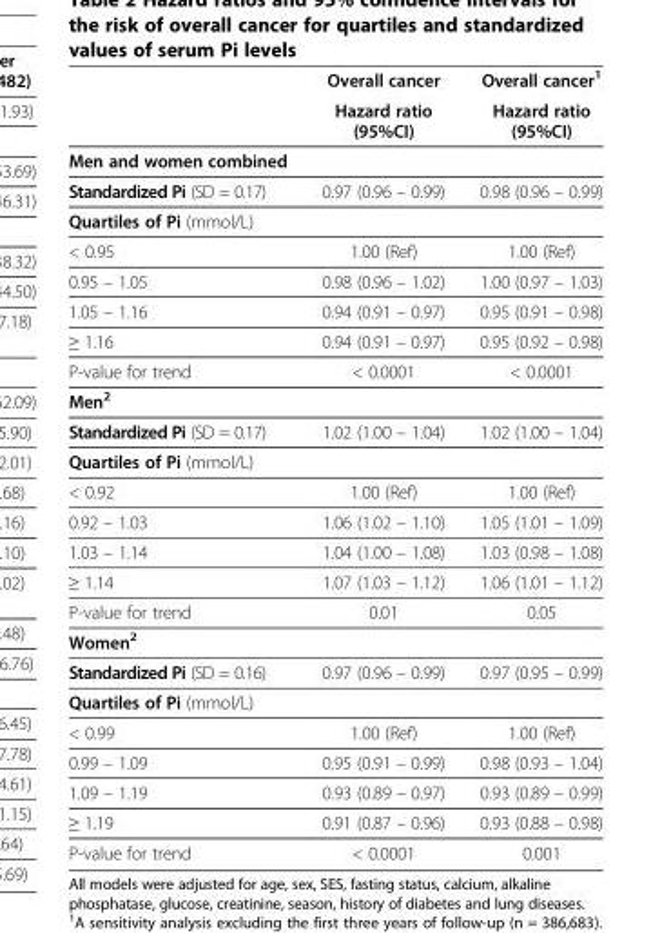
<table><thead><tr><td rowspan="2"></td><td rowspan="2">Overall cancer Hazard ratio (95%CI)</td><td rowspan="2">Overall cancer<sup>1</sup> Hazard ratio (95%CI)</td></tr><tr></tr></thead><tbody><tr><td colspan="3">Men and women combined</td></tr><tr><td>Standardized Pi (SD = 0.17)</td><td>0.97 (0.96 – 0.99)</td><td>0.98 (0.96 – 0.99)</td></tr><tr><td colspan="3">Quartiles of Pi (mmol/L)</td></tr><tr><td>&lt; 0.95</td><td>1.00 (Ref)</td><td>1.00 (Ref)</td></tr><tr><td>0.95 – 1.05</td><td>0.98 (0.96 – 1.02)</td><td>1.00 (0.97 – 1.03)</td></tr><tr><td>1.05 – 1.16</td><td>0.94 (0.91 – 0.97)</td><td>0.95 (0.91 – 0.98)</td></tr><tr><td>≥ 1.16</td><td>0.94 (0.91 – 0.97)</td><td>0.95 (0.92 – 0.98)</td></tr><tr><td>P-value for trend</td><td>&lt; 0.0001</td><td>&lt; 0.0001</td></tr><tr><td colspan="3">Men<sup>2</sup></td></tr><tr><td>Standardized Pi (SD = 0.17)</td><td>1.02 (1.00 – 1.04)</td><td>1.02 (1.00 – 1.04)</td></tr><tr><td colspan="3">Quartiles of Pi (mmol/L)</td></tr><tr><td>&lt; 0.92</td><td>1.00 (Ref)</td><td>1.00 (Ref)</td></tr><tr><td>0.92 – 1.03</td><td>1.06 (1.02 – 1.10)</td><td>1.05 (1.01 – 1.09)</td></tr><tr><td>1.03 – 1.14</td><td>1.04 (1.00 – 1.08)</td><td>1.03 (0.98 – 1.08)</td></tr><tr><td>≥ 1.14</td><td>1.07 (1.03 – 1.12)</td><td>1.06 (1.01 – 1.12)</td></tr><tr><td>P-value for trend</td><td>0.01</td><td>0.05</td></tr><tr><td colspan="3">Women<sup>2</sup></td></tr><tr><td>Standardized Pi (SD = 0.16)</td><td>0.97 (0.96 – 0.99)</td><td>0.97 (0.95 – 0.99)</td></tr><tr><td colspan="3">Quartiles of Pi (mmol/L)</td></tr><tr><td>&lt; 0.99</td><td>1.00 (Ref)</td><td>1.00 (Ref)</td></tr><tr><td>0.99 – 1.09</td><td>0.95 (0.91 – 0.99)</td><td>0.98 (0.93 – 1.04)</td></tr><tr><td>1.09 – 1.19</td><td>0.93 (0.89 – 0.97)</td><td>0.93 (0.89 – 0.99)</td></tr><tr><td>≥ 1.19</td><td>0.91 (0.87 – 0.96)</td><td>0.93 (0.88 – 0.98)</td></tr><tr><td>P-value for trend</td><td>&lt; 0.0001</td><td>0.001</td></tr></tbody></table>